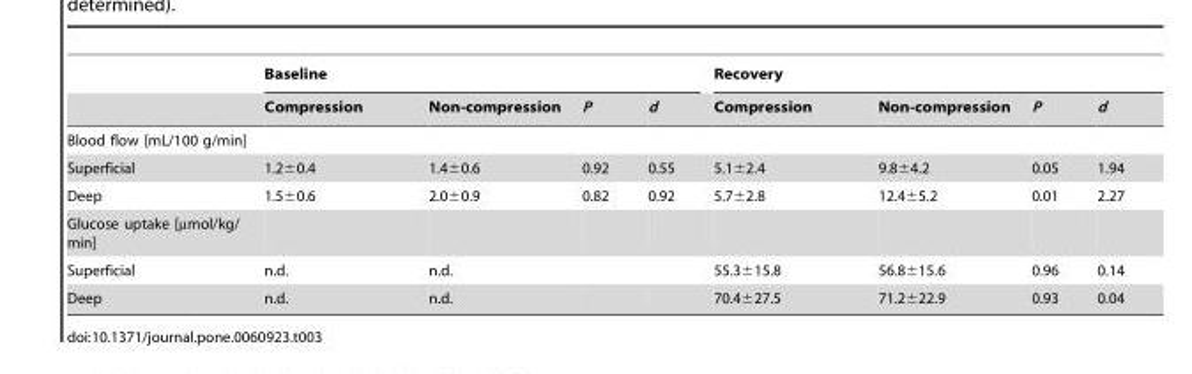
<table><thead><tr><td rowspan="2"></td><td colspan="4">Baseline</td><td colspan="4">Recovery</td></tr><tr><td>Compression</td><td>Non-compression</td><td>P</td><td>d</td><td>Compression</td><td>Non-compression</td><td>P</td><td>d</td></tr></thead><tbody><tr><td colspan="9">Blood flow [mL/100 g/min]</td></tr><tr><td>Superficial</td><td>1.2±0.4</td><td>1.4±0.6</td><td>0.92</td><td>0.55</td><td>5.1±2.4</td><td>9.8±4.2</td><td>0.05</td><td>1.94</td></tr><tr><td>Deep</td><td>1.5±0.6</td><td>2.0±0.9</td><td>0.82</td><td>0.92</td><td>5.7±2.8</td><td>12.4±5.2</td><td>0.01</td><td>2.27</td></tr><tr><td colspan="9">Glucose uptake [µmol/kg/ min]</td></tr><tr><td>Superficial</td><td>n.d.</td><td>n.d.</td><td></td><td></td><td>55.3±15.8</td><td>56.8±15.6</td><td>0.96</td><td>0.14</td></tr><tr><td>Deep</td><td>n.d.</td><td>n.d.</td><td></td><td></td><td>70.4±27.5</td><td>71.2±22.9</td><td>0.93</td><td>0.04</td></tr></tbody></table>